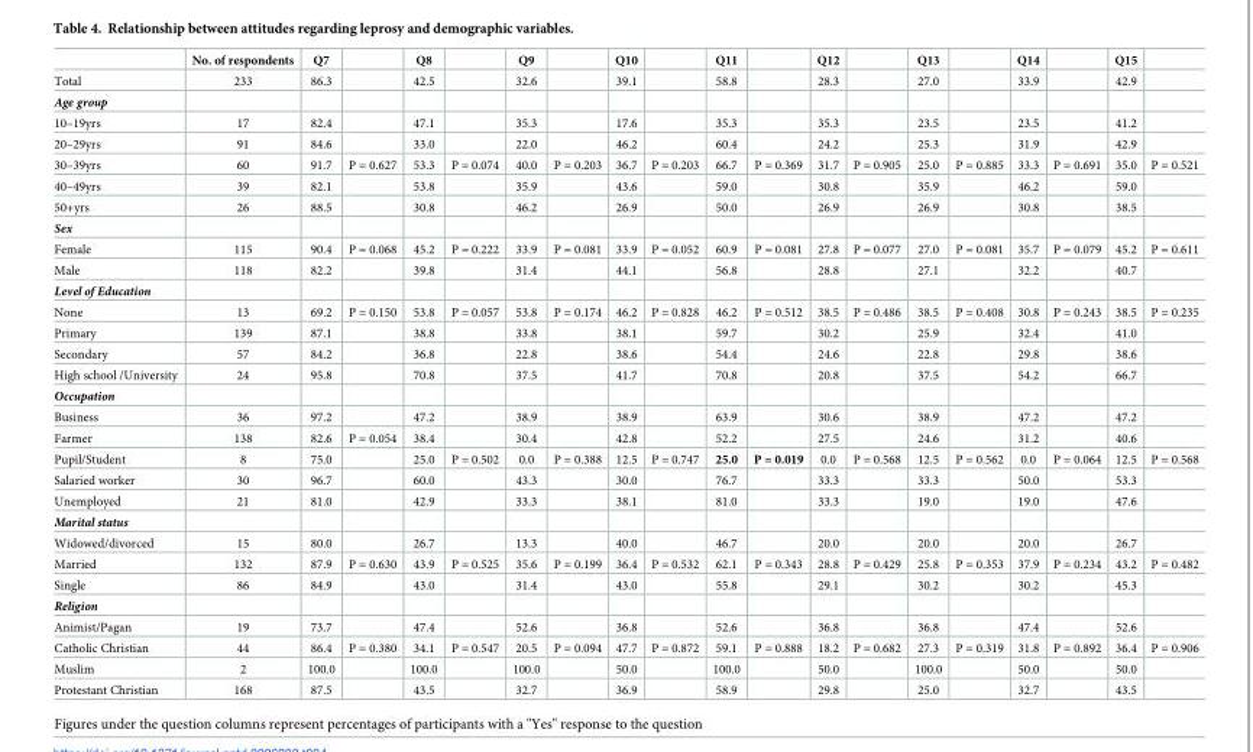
<table><thead><tr><td></td><td>No. of respondents</td><td>Q7</td><td></td><td>Q8</td><td></td><td>Q9</td><td></td><td>Q10</td><td></td><td>Q11</td><td></td><td>Q12</td><td></td><td>Q13</td><td></td><td>Q14</td><td></td><td>Q15</td><td></td></tr></thead><tbody><tr><td>Total</td><td>233</td><td>86.3</td><td></td><td>42.5</td><td></td><td>32.6</td><td></td><td>39.1</td><td></td><td>58.8</td><td></td><td>28.3</td><td></td><td>27.0</td><td></td><td>33.9</td><td></td><td>42.9</td><td></td></tr><tr><td colspan="20">Age group</td></tr><tr><td>10–19yrs</td><td>17</td><td>82.4</td><td></td><td>47.1</td><td></td><td>35.3</td><td></td><td>17.6</td><td></td><td>35.3</td><td></td><td>35.3</td><td></td><td>23.5</td><td></td><td>23.5</td><td></td><td>41.2</td><td></td></tr><tr><td>20–29yrs</td><td>91</td><td>84.6</td><td></td><td>33.0</td><td></td><td>22.0</td><td></td><td>46.2</td><td></td><td>60.4</td><td></td><td>24.2</td><td></td><td>25.3</td><td></td><td>31.9</td><td></td><td>42.9</td><td></td></tr><tr><td>30–39yrs</td><td>60</td><td>91.7</td><td>P = 0.627</td><td>53.3</td><td>P = 0.074</td><td>40.0</td><td>P = 0.203</td><td>36.7</td><td>P = 0.203</td><td>66.7</td><td>P = 0.369</td><td>31.7</td><td>P = 0.905</td><td>25.0</td><td>P = 0.885</td><td>33.3</td><td>P = 0.691</td><td>35.0</td><td>P = 0.521</td></tr><tr><td>40–49yrs</td><td>39</td><td>82.1</td><td></td><td>53.8</td><td></td><td>35.9</td><td></td><td>43.6</td><td></td><td>59.0</td><td></td><td>30.8</td><td></td><td>35.9</td><td></td><td>46.2</td><td></td><td>59.0</td><td></td></tr><tr><td>50+yrs</td><td>26</td><td>88.5</td><td></td><td>30.8</td><td></td><td>46.2</td><td></td><td>26.9</td><td></td><td>50.0</td><td></td><td>26.9</td><td></td><td>26.9</td><td></td><td>30.8</td><td></td><td>38.5</td><td></td></tr><tr><td colspan="20">Sex</td></tr><tr><td>Female</td><td>115</td><td>90.4</td><td>P = 0.068</td><td>45.2</td><td>P = 0.222</td><td>33.9</td><td>P = 0.081</td><td>33.9</td><td>P = 0.052</td><td>60.9</td><td>P = 0.081</td><td>27.8</td><td>P = 0.077</td><td>27.0</td><td>P = 0.081</td><td>35.7</td><td>P = 0.079</td><td>45.2</td><td>P = 0.611</td></tr><tr><td>Male</td><td>118</td><td>82.2</td><td></td><td>39.8</td><td></td><td>31.4</td><td></td><td>44.1</td><td></td><td>56.8</td><td></td><td>28.8</td><td></td><td>27.1</td><td></td><td>32.2</td><td></td><td>40.7</td><td></td></tr><tr><td colspan="20">Level of Education</td></tr><tr><td>None</td><td>13</td><td>69.2</td><td>P = 0.150</td><td>53.8</td><td>P = 0.057</td><td>53.8</td><td>P = 0.174</td><td>46.2</td><td>P = 0.828</td><td>46.2</td><td>P = 0.512</td><td>38.5</td><td>P = 0.486</td><td>38.5</td><td>P = 0.408</td><td>30.8</td><td>P = 0.243</td><td>38.5</td><td>P = 0.235</td></tr><tr><td>Primary</td><td>139</td><td>87.1</td><td></td><td>38.8</td><td></td><td>33.8</td><td></td><td>38.1</td><td></td><td>59.7</td><td></td><td>30.2</td><td></td><td>25.9</td><td></td><td>32.4</td><td></td><td>41.0</td><td></td></tr><tr><td>Secondary</td><td>57</td><td>84.2</td><td></td><td>36.8</td><td></td><td>22.8</td><td></td><td>38.6</td><td></td><td>54.4</td><td></td><td>24.6</td><td></td><td>22.8</td><td></td><td>29.8</td><td></td><td>38.6</td><td></td></tr><tr><td>High school /University</td><td>24</td><td>95.8</td><td></td><td>70.8</td><td></td><td>37.5</td><td></td><td>41.7</td><td></td><td>70.8</td><td></td><td>20.8</td><td></td><td>37.5</td><td></td><td>54.2</td><td></td><td>66.7</td><td></td></tr><tr><td colspan="20">Occupation</td></tr><tr><td>Business</td><td>36</td><td>97.2</td><td></td><td>47.2</td><td></td><td>38.9</td><td></td><td>38.9</td><td></td><td>63.9</td><td></td><td>30.6</td><td></td><td>38.9</td><td></td><td>47.2</td><td></td><td>47.2</td><td></td></tr><tr><td>Farmer</td><td>138</td><td>82.6</td><td>P = 0.054</td><td>38.4</td><td></td><td>30.4</td><td></td><td>42.8</td><td></td><td>52.2</td><td></td><td>27.5</td><td></td><td>24.6</td><td></td><td>31.2</td><td></td><td>40.6</td><td></td></tr><tr><td>Pupil/Student</td><td>8</td><td>75.0</td><td></td><td>25.0</td><td>P = 0.502</td><td>0.0</td><td>P = 0.388</td><td>12.5</td><td>P = 0.747</td><td>25.0</td><td>P = 0.019</td><td>0.0</td><td>P = 0.568</td><td>12.5</td><td>P = 0.562</td><td>0.0</td><td>P = 0.064</td><td>12.5</td><td>P = 0.568</td></tr><tr><td>Salaried worker</td><td>30</td><td>96.7</td><td></td><td>60.0</td><td></td><td>43.3</td><td></td><td>30.0</td><td></td><td>76.7</td><td></td><td>33.3</td><td></td><td>33.3</td><td></td><td>50.0</td><td></td><td>53.3</td><td></td></tr><tr><td>Unemployed</td><td>21</td><td>81.0</td><td></td><td>42.9</td><td></td><td>33.3</td><td></td><td>38.1</td><td></td><td>81.0</td><td></td><td>33.3</td><td></td><td>19.0</td><td></td><td>19.0</td><td></td><td>47.6</td><td></td></tr><tr><td colspan="20">Marital status</td></tr><tr><td>Widowed/divorced</td><td>15</td><td>80.0</td><td></td><td>26.7</td><td></td><td>13.3</td><td></td><td>40.0</td><td></td><td>46.7</td><td></td><td>20.0</td><td></td><td>20.0</td><td></td><td>20.0</td><td></td><td>26.7</td><td></td></tr><tr><td>Married</td><td>132</td><td>87.9</td><td>P = 0.630</td><td>43.9</td><td>P = 0.525</td><td>35.6</td><td>P = 0.199</td><td>36.4</td><td>P = 0.532</td><td>62.1</td><td>P = 0.343</td><td>28.8</td><td>P = 0.429</td><td>25.8</td><td>P = 0.353</td><td>37.9</td><td>P = 0.234</td><td>43.2</td><td>P = 0.482</td></tr><tr><td>Single</td><td>86</td><td>84.9</td><td></td><td>43.0</td><td></td><td>31.4</td><td></td><td>43.0</td><td></td><td>55.8</td><td></td><td>29.1</td><td></td><td>30.2</td><td></td><td>30.2</td><td></td><td>45.3</td><td></td></tr><tr><td colspan="20">Religion</td></tr><tr><td>Animist/Pagan</td><td>19</td><td>73.7</td><td></td><td>47.4</td><td></td><td>52.6</td><td></td><td>36.8</td><td></td><td>52.6</td><td></td><td>36.8</td><td></td><td>36.8</td><td></td><td>47.4</td><td></td><td>52.6</td><td></td></tr><tr><td>Catholic Christian</td><td>44</td><td>86.4</td><td>P = 0.380</td><td>34.1</td><td>P = 0.547</td><td>20.5</td><td>P = 0.094</td><td>47.7</td><td>P = 0.872</td><td>59.1</td><td>P = 0.888</td><td>18.2</td><td>P = 0.682</td><td>27.3</td><td>P = 0.319</td><td>31.8</td><td>P = 0.892</td><td>36.4</td><td>P = 0.906</td></tr><tr><td>Muslim</td><td>2</td><td>100.0</td><td></td><td>100.0</td><td></td><td>100.0</td><td></td><td>50.0</td><td></td><td>100.0</td><td></td><td>50.0</td><td></td><td>100.0</td><td></td><td>50.0</td><td></td><td>50.0</td><td></td></tr><tr><td>Protestant Christian</td><td>168</td><td>87.5</td><td></td><td>43.5</td><td></td><td>32.7</td><td></td><td>36.9</td><td></td><td>58.9</td><td></td><td>29.8</td><td></td><td>25.0</td><td></td><td>32.7</td><td></td><td>43.5</td><td></td></tr></tbody></table>